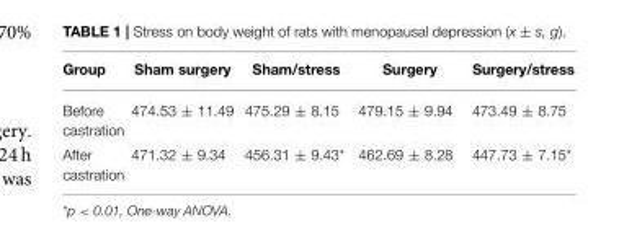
<table><thead><tr><td>Group</td><td>Sham surgery</td><td>Sham/stress</td><td>Surgery</td><td>Surgery/stress</td></tr></thead><tbody><tr><td>Before castration</td><td>474.53 ± 11.49</td><td>475.29 ± 8.15</td><td>479.15 ± 9.94</td><td>473.49 ± 8.75</td></tr><tr><td>After castration</td><td>471.32 ± 9.34</td><td>456.31 ± 9.43*</td><td>462.69 ± 8.28</td><td>447.73 ± 7.15*</td></tr></tbody></table>